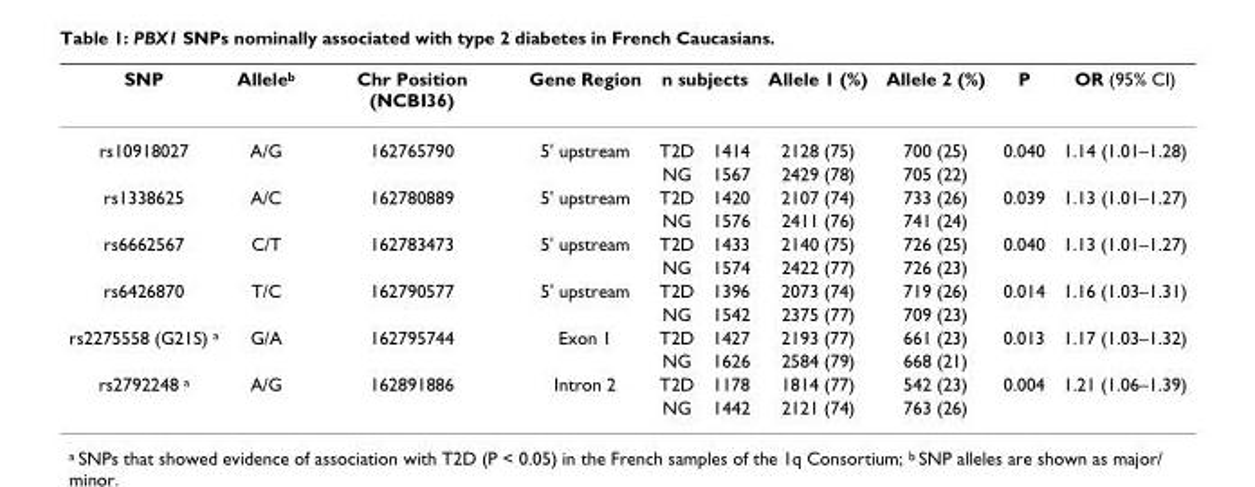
<table><thead><tr><td rowspan="2">SNP rs10918027</td><td rowspan="2">Allele<sup>b</sup> A/G</td><td rowspan="2">Chr Position (NCBI36) 162765790</td><td rowspan="2">Gene Region 5&#x27; upstream</td><td colspan="2">n subjects</td><td rowspan="2">Allele 1 (%) 2128 (75)</td><td rowspan="2">Allele 2 (%) 700 (25)</td><td rowspan="2">P 0.040</td><td rowspan="2">OR (95% CI) 1.14 (1.01–1.28)</td></tr><tr><td>T2D</td><td>1414</td></tr></thead><tbody><tr><td></td><td></td><td></td><td></td><td>NG</td><td>1567</td><td>2429 (78)</td><td>705 (22)</td><td></td><td></td></tr><tr><td rowspan="2">rs1338625</td><td>A/C</td><td>162780889</td><td>5&#x27; upstream</td><td>T2D</td><td>1420</td><td>2107 (74)</td><td>733 (26)</td><td>0.039</td><td>1.13 (1.01–1.27)</td></tr><tr><td></td><td></td><td></td><td>NG</td><td>1576</td><td>2411 (76)</td><td>741 (24)</td><td></td><td></td></tr><tr><td rowspan="2">rs6662567</td><td>C/T</td><td>162783473</td><td>5&#x27; upstream</td><td>T2D</td><td>1433</td><td>2140 (75)</td><td>726 (25)</td><td>0.040</td><td>1.13 (1.01–1.27)</td></tr><tr><td></td><td></td><td></td><td>NG</td><td>1574</td><td>2422 (77)</td><td>726 (23)</td><td></td><td></td></tr><tr><td rowspan="2">rs6426870</td><td>T/C</td><td>162790577</td><td>5&#x27; upstream</td><td>T2D</td><td>1396</td><td>2073 (74)</td><td>719 (26)</td><td>0.014</td><td>1.16 (1.03–1.31)</td></tr><tr><td></td><td></td><td></td><td>NG</td><td>1542</td><td>2375 (77)</td><td>709 (23)</td><td></td><td></td></tr><tr><td rowspan="2">rs2275558 (G21S) <sup>a</sup></td><td>G/A</td><td>162795744</td><td>Exon 1</td><td>T2D</td><td>1427</td><td>2193 (77)</td><td>661 (23)</td><td>0.013</td><td>1.17 (1.03–1.32)</td></tr><tr><td></td><td></td><td></td><td>NG</td><td>1626</td><td>2584 (79)</td><td>668 (21)</td><td></td><td></td></tr><tr><td rowspan="2">rs2792248 <sup>a</sup></td><td>A/G</td><td>162891886</td><td>Intron 2</td><td>T2D</td><td>1178</td><td>1814 (77)</td><td>542 (23)</td><td>0.004</td><td>1.21 (1.06–1.39)</td></tr><tr><td></td><td></td><td></td><td>NG</td><td>1442</td><td>2121 (74)</td><td>763 (26)</td><td></td><td></td></tr></tbody></table>